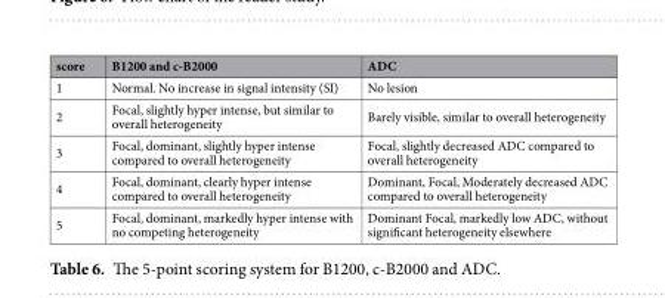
<table><thead><tr><td>score</td><td>B1200 and c-B2000</td><td>ADC</td></tr></thead><tbody><tr><td>1</td><td>Normal. No increase in signal intensity (SI)</td><td>No lesion</td></tr><tr><td>2</td><td>Focal, slightly hyper intense, but similar to overall heterogeneity</td><td>Barely visible, similar to overall heterogeneity</td></tr><tr><td>3</td><td>Focal, dominant, slightly hyper intense compared to overall heterogeneity</td><td>Focal, slightly decreased ADC compared to overall heterogeneity</td></tr><tr><td>4</td><td>Focal, dominant, clearly hyper intense compared to overall heterogeneity</td><td>Dominant, Focal, Moderately decreased ADC compared to overall heterogeneity</td></tr><tr><td>5</td><td>Focal, dominant, markedly hyper intense with no competing heterogeneity</td><td>Dominant Focal, markedly low ADC, without significant heterogeneity elsewhere</td></tr></tbody></table>